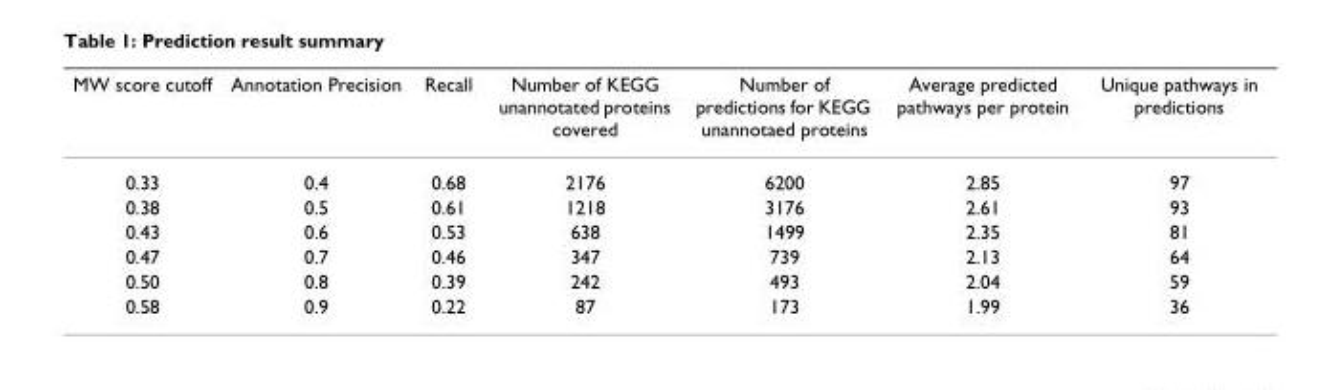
<table><thead><tr><td>MW score cutoff</td><td>Annotation Precision</td><td>Recall</td><td>Number of KEGG unannotated proteins covered</td><td>Number of predictions for KEGG unannotaed proteins</td><td>Average predicted pathways per protein</td><td>Unique pathways in predictions</td></tr></thead><tbody><tr><td>0.33</td><td>0.4</td><td>0.68</td><td>2176</td><td>6200</td><td>2.85</td><td>97</td></tr><tr><td>0.38</td><td>0.5</td><td>0.61</td><td>1218</td><td>3176</td><td>2.61</td><td>93</td></tr><tr><td>0.43</td><td>0.6</td><td>0.53</td><td>638</td><td>1499</td><td>2.35</td><td>81</td></tr><tr><td>0.47</td><td>0.7</td><td>0.46</td><td>347</td><td>739</td><td>2.13</td><td>64</td></tr><tr><td>0.50</td><td>0.8</td><td>0.39</td><td>242</td><td>493</td><td>2.04</td><td>59</td></tr><tr><td>0.58</td><td>0.9</td><td>0.22</td><td>87</td><td>173</td><td>1.99</td><td>36</td></tr></tbody></table>